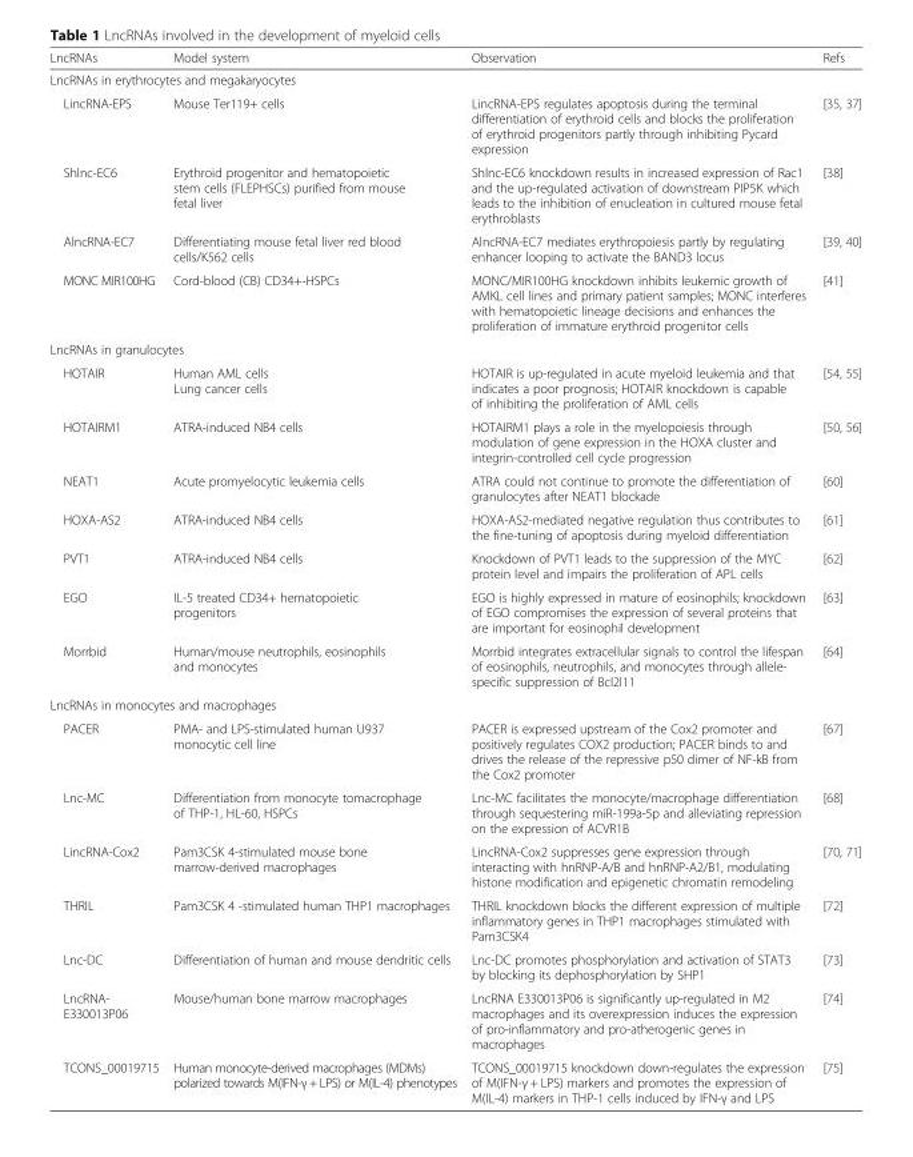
<table><thead><tr><td>LncRNAs</td><td>Model system</td><td>Observation</td><td>Refs</td></tr></thead><tbody><tr><td colspan="4">LncRNAs in erythrocytes and megakaryocytes</td></tr><tr><td>LincRNA-EPS</td><td>Mouse Ter119+ cells</td><td>LincRNA-EPS regulates apoptosis during the terminal differentiation of erythroid cells and blocks the proliferation of erythroid progenitors partly through inhibiting Pycard expression</td><td>[35, 37]</td></tr><tr><td>Shlnc-EC6</td><td>Erythroid progenitor and hematopoietic stem cells (FLEPHSCs) purified from mouse fetal liver</td><td>Shlnc-EC6 knockdown results in increased expression of Rac1 and the up-regulated activation of downstream PIP5K which leads to the inhibition of enucleation in cultured mouse fetal erythroblasts</td><td>[38]</td></tr><tr><td>AlncRNA-EC7</td><td>Differentiating mouse fetal liver red blood cells/K562 cells</td><td>AlncRNA-EC7 mediates erythropoiesis partly by regulating enhancer looping to activate the BAND3 locus</td><td>[39, 40]</td></tr><tr><td>MONC MIR100HG</td><td>Cord-blood (CB) CD34+-HSPCs</td><td>MONC/MIR100HG knockdown inhibits leukemic growth of AMKL cell lines and primary patient samples; MONC interferes with hematopoietic lineage decisions and enhances the proliferation of immature erythroid progenitor cells</td><td>[41]</td></tr><tr><td colspan="4">LncRNAs in granulocytes</td></tr><tr><td>HOTAIR</td><td>Human AML cells Lung cancer cells</td><td>HOTAIR is up-regulated in acute myeloid leukemia and that indicates a poor prognosis; HOTAIR knockdown is capable of inhibiting the proliferation of AML cells</td><td>[54, 55]</td></tr><tr><td>HOTAIRM1</td><td>ATRA-induced NB4 cells</td><td>HOTAIRM1 plays a role in the myelopoiesis through modulation of gene expression in the HOXA cluster and integrin-controlled cell cycle progression</td><td>[50, 56]</td></tr><tr><td>NEAT1</td><td>Acute promyelocytic leukemia cells</td><td>ATRA could not continue to promote the differentiation of granulocytes after NEAT1 blockade</td><td>[60]</td></tr><tr><td>HOXA-AS2</td><td>ATRA-induced NB4 cells</td><td>HOXA-AS2-mediated negative regulation thus contributes to the fine-tuning of apoptosis during myeloid differentiation</td><td>[61]</td></tr><tr><td>PVT1</td><td>ATRA-induced NB4 cells</td><td>Knockdown of PVT1 leads to the suppression of the MYC protein level and impairs the proliferation of APL cells</td><td>[62]</td></tr><tr><td>EGO</td><td>IL-5 treated CD34+ hematopoietic progenitors</td><td>EGO is highly expressed in mature of eosinophils; knockdown of EGO compromises the expression of several proteins that are important for eosinophil development</td><td>[63]</td></tr><tr><td>Morrbid</td><td>Human/mouse neutrophils, eosinophils and monocytes</td><td>Morrbid integrates extracellular signals to control the lifespan of eosinophils, neutrophils, and monocytes through allele- specific suppression of Bcl2l11</td><td>[64]</td></tr><tr><td colspan="4">LncRNAs in monocytes and macrophages</td></tr><tr><td>PACER</td><td>PMA- and LPS-stimulated human U937 monocytic cell line</td><td>PACER is expressed upstream of the Cox2 promoter and positively regulates COX2 production; PACER binds to and drives the release of the repressive p50 dimer of NF-kB from the Cox2 promoter</td><td>[67]</td></tr><tr><td>Lnc-MC</td><td>Differentiation from monocyte tomacrophage of THP-1, HL-60, HSPCs</td><td>Lnc-MC facilitates the monocyte/macrophage differentiation through sequestering miR-199a-5p and alleviating repression on the expression of ACVR1B</td><td>[68]</td></tr><tr><td>LincRNA-Cox2</td><td>Pam3CSK 4-stimulated mouse bone marrow-derived macrophages</td><td>LincRNA-Cox2 suppresses gene expression through interacting with hnRNP-A/B and hnRNP-A2/B1, modulating histone modification and epigenetic chromatin remodeling</td><td>[70, 71]</td></tr><tr><td>THRIL</td><td>Pam3CSK 4 -stimulated human THP1 macrophages</td><td>THRIL knockdown blocks the different expression of multiple inflammatory genes in THP1 macrophages stimulated with Pam3CSK4</td><td>[72]</td></tr><tr><td>Lnc-DC</td><td>Differentiation of human and mouse dendritic cells</td><td>Lnc-DC promotes phosphorylation and activation of STAT3 by blocking its dephosphorylation by SHP1</td><td>[73]</td></tr><tr><td>LncRNA- E330013P06</td><td>Mouse/human bone marrow macrophages</td><td>LncRNA E330013P06 is significantly up-regulated in M2 macrophages and its overexpression induces the expression of pro-inflammatory and pro-atherogenic genes in macrophages</td><td>[74]</td></tr><tr><td>TCONS_00019715</td><td>Human monocyte-derived macrophages (MDMs) polarized towards M(IFN-γ + LPS) or M(IL-4) phenotypes</td><td>TCONS_00019715 knockdown down-regulates the expression of M(IFN-γ + LPS) markers and promotes the expression of M(IL-4) markers in THP-1 cells induced by IFN-γ and LPS</td><td>[75]</td></tr></tbody></table>